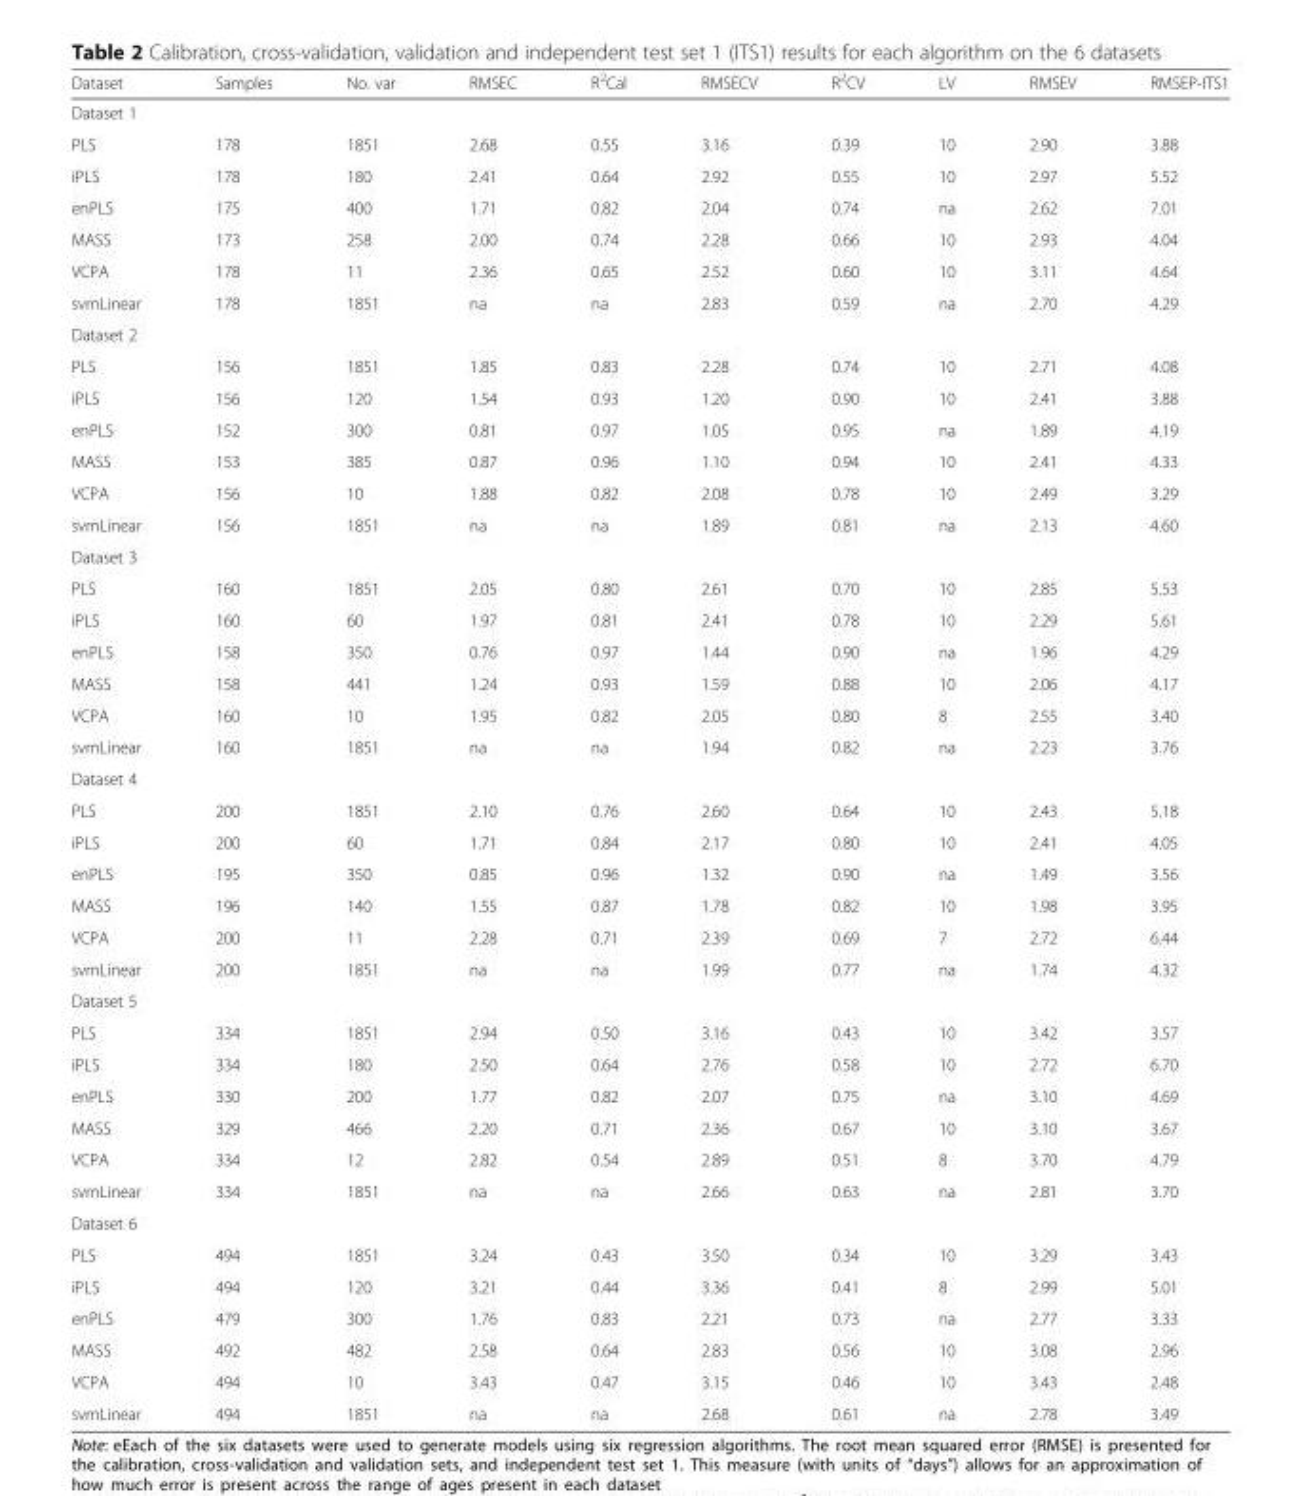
<table><thead><tr><td>Dataset</td><td>Samples</td><td>No. var</td><td>RMSEC</td><td>R<sup>2</sup>Cal</td><td>RMSECV</td><td>R<sup>2</sup>CV</td><td>LV</td><td>RMSEV</td><td>RMSEP-ITS1</td></tr></thead><tbody><tr><td colspan="10">Dataset 1</td></tr><tr><td>PLS</td><td>178</td><td>1851</td><td>2.68</td><td>0.55</td><td>3.16</td><td>0.39</td><td>10</td><td>2.90</td><td>3.88</td></tr><tr><td>iPLS</td><td>178</td><td>180</td><td>2.41</td><td>0.64</td><td>2.92</td><td>0.55</td><td>10</td><td>2.97</td><td>5.52</td></tr><tr><td>enPLS</td><td>175</td><td>400</td><td>1.71</td><td>0.82</td><td>2.04</td><td>0.74</td><td>na</td><td>2.62</td><td>7.01</td></tr><tr><td>MASS</td><td>173</td><td>258</td><td>2.00</td><td>0.74</td><td>2.28</td><td>0.66</td><td>10</td><td>2.93</td><td>4.04</td></tr><tr><td>VCPA</td><td>178</td><td>11</td><td>2.36</td><td>0.65</td><td>2.52</td><td>0.60</td><td>10</td><td>3.11</td><td>4.64</td></tr><tr><td>svmLinear</td><td>178</td><td>1851</td><td>na</td><td>na</td><td>2.83</td><td>0.59</td><td>na</td><td>2.70</td><td>4.29</td></tr><tr><td colspan="10">Dataset 2</td></tr><tr><td>PLS</td><td>156</td><td>1851</td><td>1.85</td><td>0.83</td><td>2.28</td><td>0.74</td><td>10</td><td>2.71</td><td>4.08</td></tr><tr><td>iPLS</td><td>156</td><td>120</td><td>1.54</td><td>0.93</td><td>1.20</td><td>0.90</td><td>10</td><td>2.41</td><td>3.88</td></tr><tr><td>enPLS</td><td>152</td><td>300</td><td>0.81</td><td>0.97</td><td>1.05</td><td>0.95</td><td>na</td><td>1.89</td><td>4.19</td></tr><tr><td>MASS</td><td>153</td><td>385</td><td>0.87</td><td>0.96</td><td>1.10</td><td>0.94</td><td>10</td><td>2.41</td><td>4.33</td></tr><tr><td>VCPA</td><td>156</td><td>10</td><td>1.88</td><td>0.82</td><td>2.08</td><td>0.78</td><td>10</td><td>2.49</td><td>3.29</td></tr><tr><td>svmLinear</td><td>156</td><td>1851</td><td>na</td><td>na</td><td>1.89</td><td>0.81</td><td>na</td><td>2.13</td><td>4.60</td></tr><tr><td colspan="10">Dataset 3</td></tr><tr><td>PLS</td><td>160</td><td>1851</td><td>2.05</td><td>0.80</td><td>2.61</td><td>0.70</td><td>10</td><td>2.85</td><td>5.53</td></tr><tr><td>iPLS</td><td>160</td><td>60</td><td>1.97</td><td>0.81</td><td>2.41</td><td>0.78</td><td>10</td><td>2.29</td><td>5.61</td></tr><tr><td>enPLS</td><td>158</td><td>350</td><td>0.76</td><td>0.97</td><td>1.44</td><td>0.90</td><td>na</td><td>1.96</td><td>4.29</td></tr><tr><td>MASS</td><td>158</td><td>441</td><td>1.24</td><td>0.93</td><td>1.59</td><td>0.88</td><td>10</td><td>2.06</td><td>4.17</td></tr><tr><td>VCPA</td><td>160</td><td>10</td><td>1.95</td><td>0.82</td><td>2.05</td><td>0.80</td><td>8</td><td>2.55</td><td>3.40</td></tr><tr><td>svmLinear</td><td>160</td><td>1851</td><td>na</td><td>na</td><td>1.94</td><td>0.82</td><td>na</td><td>2.23</td><td>3.76</td></tr><tr><td colspan="10">Dataset 4</td></tr><tr><td>PLS</td><td>200</td><td>1851</td><td>2.10</td><td>0.76</td><td>2.60</td><td>0.64</td><td>10</td><td>2.43</td><td>5.18</td></tr><tr><td>iPLS</td><td>200</td><td>60</td><td>1.71</td><td>0.84</td><td>2.17</td><td>0.80</td><td>10</td><td>2.41</td><td>4.05</td></tr><tr><td>enPLS</td><td>195</td><td>350</td><td>0.85</td><td>0.96</td><td>1.32</td><td>0.90</td><td>na</td><td>1.49</td><td>3.56</td></tr><tr><td>MASS</td><td>196</td><td>140</td><td>1.55</td><td>0.87</td><td>1.78</td><td>0.82</td><td>10</td><td>1.98</td><td>3.95</td></tr><tr><td>VCPA</td><td>200</td><td>11</td><td>2.28</td><td>0.71</td><td>2.39</td><td>0.69</td><td>7</td><td>2.72</td><td>6.44</td></tr><tr><td>svmLinear</td><td>200</td><td>1851</td><td>na</td><td>na</td><td>1.99</td><td>0.77</td><td>na</td><td>1.74</td><td>4.32</td></tr><tr><td colspan="10">Dataset 5</td></tr><tr><td>PLS</td><td>334</td><td>1851</td><td>2.94</td><td>0.50</td><td>3.16</td><td>0.43</td><td>10</td><td>3.42</td><td>3.57</td></tr><tr><td>iPLS</td><td>334</td><td>180</td><td>2.50</td><td>0.64</td><td>2.76</td><td>0.58</td><td>10</td><td>2.72</td><td>6.70</td></tr><tr><td>enPLS</td><td>330</td><td>200</td><td>1.77</td><td>0.82</td><td>2.07</td><td>0.75</td><td>na</td><td>3.10</td><td>4.69</td></tr><tr><td>MASS</td><td>329</td><td>466</td><td>2.20</td><td>0.71</td><td>2.36</td><td>0.67</td><td>10</td><td>3.10</td><td>3.67</td></tr><tr><td>VCPA</td><td>334</td><td>12</td><td>2.82</td><td>0.54</td><td>2.89</td><td>0.51</td><td>8</td><td>3.70</td><td>4.79</td></tr><tr><td>svmLinear</td><td>334</td><td>1851</td><td>na</td><td>na</td><td>2.66</td><td>0.63</td><td>na</td><td>2.81</td><td>3.70</td></tr><tr><td colspan="10">Dataset 6</td></tr><tr><td>PLS</td><td>494</td><td>1851</td><td>3.24</td><td>0.43</td><td>3.50</td><td>0.34</td><td>10</td><td>3.29</td><td>3.43</td></tr><tr><td>iPLS</td><td>494</td><td>120</td><td>3.21</td><td>0.44</td><td>3.36</td><td>0.41</td><td>8</td><td>2.99</td><td>5.01</td></tr><tr><td>enPLS</td><td>479</td><td>300</td><td>1.76</td><td>0.83</td><td>2.21</td><td>0.73</td><td>na</td><td>2.77</td><td>3.33</td></tr><tr><td>MASS</td><td>492</td><td>482</td><td>2.58</td><td>0.64</td><td>2.83</td><td>0.56</td><td>10</td><td>3.08</td><td>2.96</td></tr><tr><td>VCPA</td><td>494</td><td>10</td><td>3.43</td><td>0.47</td><td>3.15</td><td>0.46</td><td>10</td><td>3.43</td><td>2.48</td></tr><tr><td>svmLinear</td><td>494</td><td>1851</td><td>na</td><td>na</td><td>2.68</td><td>0.61</td><td>na</td><td>2.78</td><td>3.49</td></tr></tbody></table>